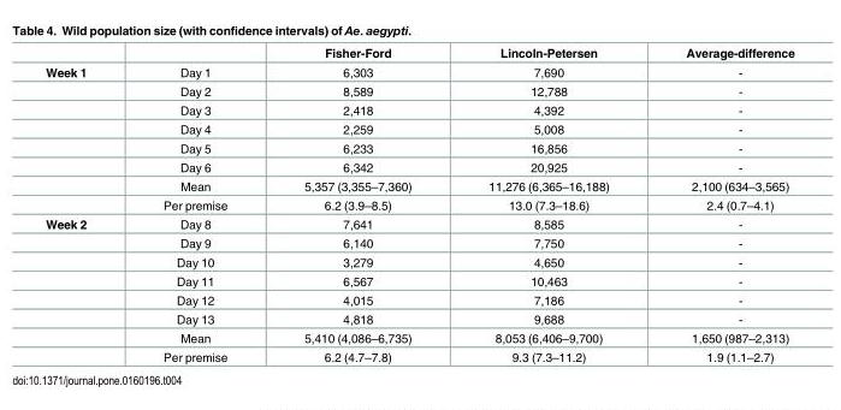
<table><thead><tr><td></td><td></td><td>Fisher-Ford</td><td>Lincoln-Petersen</td><td>Average-difference</td></tr></thead><tbody><tr><td rowspan="8">Week 1</td><td>Day 1</td><td>6,303</td><td>7,690</td><td>-</td></tr><tr><td>Day 2</td><td>8,589</td><td>12,788</td><td>-</td></tr><tr><td>Day 3</td><td>2,418</td><td>4,392</td><td>-</td></tr><tr><td>Day 4</td><td>2,259</td><td>5,008</td><td>-</td></tr><tr><td>Day 5</td><td>6,233</td><td>16,856</td><td>-</td></tr><tr><td>Day 6</td><td>6,342</td><td>20,925</td><td>-</td></tr><tr><td>Mean</td><td>5,357 (3,355–7,360)</td><td>11,276 (6,365–16,188)</td><td>2,100 (634–3,565)</td></tr><tr><td>Per premise</td><td>6.2 (3.9–8.5)</td><td>13.0 (7.3–18.6)</td><td>2.4 (0.7–4.1)</td></tr><tr><td rowspan="8">Week 2</td><td>Day 8</td><td>7,641</td><td>8,585</td><td>-</td></tr><tr><td>Day 9</td><td>6,140</td><td>7,750</td><td>-</td></tr><tr><td>Day 10</td><td>3,279</td><td>4,650</td><td>-</td></tr><tr><td>Day 11</td><td>6,567</td><td>10,463</td><td>-</td></tr><tr><td>Day 12</td><td>4,015</td><td>7,186</td><td>-</td></tr><tr><td>Day 13</td><td>4,818</td><td>9,688</td><td>-</td></tr><tr><td>Mean</td><td>5,410 (4,086–6,735)</td><td>8,053 (6,406–9,700)</td><td>1,650 (987–2,313)</td></tr><tr><td>Per premise</td><td>6.2 (4.7–7.8)</td><td>9.3 (7.3–11.2)</td><td>1.9 (1.1–2.7)</td></tr></tbody></table>